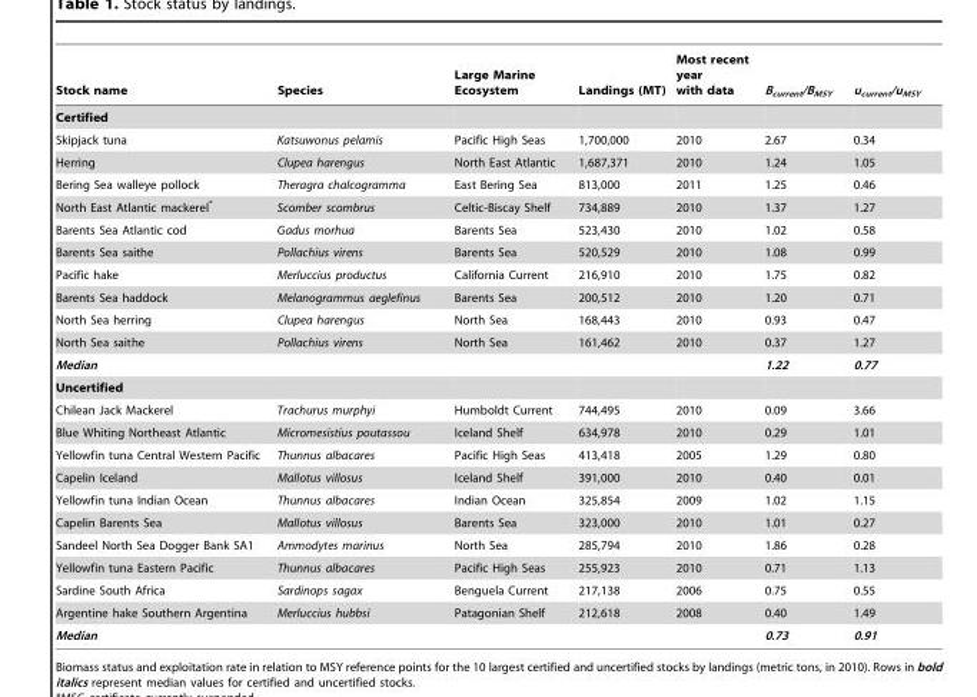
<table><thead><tr><td>Stock name</td><td>Species</td><td>Large Marine Ecosystem</td><td>Landings (MT)</td><td>Most recent year with data</td><td>B<sub>current</sub>/B<sub>MSY</sub></td><td>u<sub>current</sub>/u<sub>MSY</sub></td></tr></thead><tbody><tr><td colspan="7">Certified</td></tr><tr><td>Skipjack tuna</td><td>Katsuwonus pelamis</td><td>Pacific High Seas</td><td>1,700,000</td><td>2010</td><td>2.67</td><td>0.34</td></tr><tr><td>Herring</td><td>Clupea harengus</td><td>North East Atlantic</td><td>1,687,371</td><td>2010</td><td>1.24</td><td>1.05</td></tr><tr><td>Bering Sea walleye pollock</td><td>Theragra chalcogramma</td><td>East Bering Sea</td><td>813,000</td><td>2011</td><td>1.25</td><td>0.46</td></tr><tr><td>North East Atlantic mackerel*</td><td>Scomber scombrus</td><td>Celtic-Biscay Shelf</td><td>734,889</td><td>2010</td><td>1.37</td><td>1.27</td></tr><tr><td>Barents Sea Atlantic cod</td><td>Gadus morhua</td><td>Barents Sea</td><td>523,430</td><td>2010</td><td>1.02</td><td>0.58</td></tr><tr><td>Barents Sea saithe</td><td>Pollachius virens</td><td>Barents Sea</td><td>520,529</td><td>2010</td><td>1.08</td><td>0.99</td></tr><tr><td>Pacific hake</td><td>Merluccius productus</td><td>California Current</td><td>216,910</td><td>2010</td><td>1.75</td><td>0.82</td></tr><tr><td>Barents Sea haddock</td><td>Melanogrammus aeglefinus</td><td>Barents Sea</td><td>200,512</td><td>2010</td><td>1.20</td><td>0.71</td></tr><tr><td>North Sea herring</td><td>Clupea harengus</td><td>North Sea</td><td>168,443</td><td>2010</td><td>0.93</td><td>0.47</td></tr><tr><td>North Sea saithe</td><td>Pollachius virens</td><td>North Sea</td><td>161,462</td><td>2010</td><td>0.37</td><td>1.27</td></tr><tr><td>Median</td><td></td><td></td><td></td><td></td><td>1.22</td><td>0.77</td></tr><tr><td colspan="7">Uncertified</td></tr><tr><td>Chilean Jack Mackerel</td><td>Trachurus murphyi</td><td>Humboldt Current</td><td>744,495</td><td>2010</td><td>0.09</td><td>3.66</td></tr><tr><td>Blue Whiting Northeast Atlantic</td><td>Micromesistius poutassou</td><td>Iceland Shelf</td><td>634,978</td><td>2010</td><td>0.29</td><td>1.01</td></tr><tr><td>Yellowfin tuna Central Western Pacific</td><td>Thunnus albacares</td><td>Pacific High Seas</td><td>413,418</td><td>2005</td><td>1.29</td><td>0.80</td></tr><tr><td>Capelin Iceland</td><td>Mallotus villosus</td><td>Iceland Shelf</td><td>391,000</td><td>2010</td><td>0.40</td><td>0.01</td></tr><tr><td>Yellowfin tuna Indian Ocean</td><td>Thunnus albacares</td><td>Indian Ocean</td><td>325,854</td><td>2009</td><td>1.02</td><td>1.15</td></tr><tr><td>Capelin Barents Sea</td><td>Mallotus villosus</td><td>Barents Sea</td><td>323,000</td><td>2010</td><td>1.01</td><td>0.27</td></tr><tr><td>Sandeel North Sea Dogger Bank SA1</td><td>Ammodytes marinus</td><td>North Sea</td><td>285,794</td><td>2010</td><td>1.86</td><td>0.28</td></tr><tr><td>Yellowfin tuna Eastern Pacific</td><td>Thunnus albacares</td><td>Pacific High Seas</td><td>255,923</td><td>2010</td><td>0.71</td><td>1.13</td></tr><tr><td>Sardine South Africa</td><td>Sardinops sagax</td><td>Benguela Current</td><td>217,138</td><td>2006</td><td>0.75</td><td>0.55</td></tr><tr><td>Argentine hake Southern Argentina</td><td>Merluccius hubbsi</td><td>Patagonian Shelf</td><td>212,618</td><td>2008</td><td>0.40</td><td>1.49</td></tr><tr><td>Median</td><td></td><td></td><td></td><td></td><td>0.73</td><td>0.91</td></tr></tbody></table>